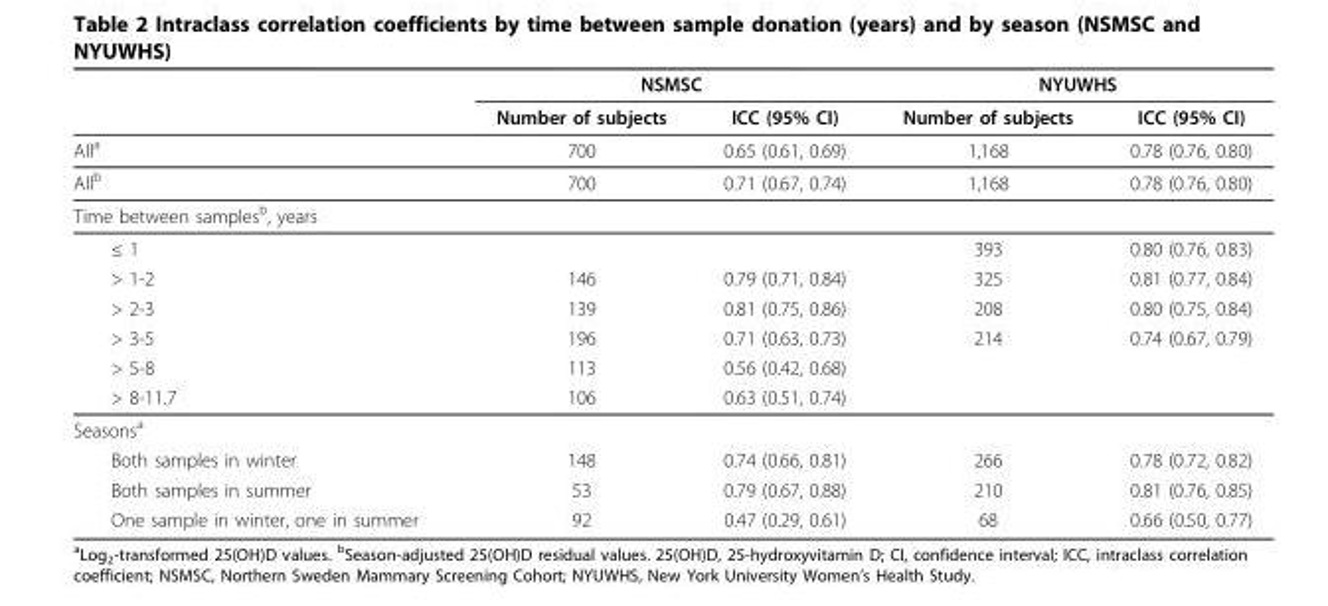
<table><thead><tr><td rowspan="2"></td><td colspan="2">NSMSC</td><td colspan="2">NYUWHS</td></tr><tr><td>Number of subjects</td><td>ICC (95% CI)</td><td>Number of subjects</td><td>ICC (95% CI)</td></tr></thead><tbody><tr><td>All<sup>a</sup></td><td>700</td><td>0.65 (0.61, 0.69)</td><td>1,168</td><td>0.78 (0.76, 0.80)</td></tr><tr><td>All<sup>b</sup></td><td>700</td><td>0.71 (0.67, 0.74)</td><td>1,168</td><td>0.78 (0.76, 0.80)</td></tr><tr><td colspan="5">Time between samples<sup>b</sup>, years</td></tr><tr><td>≤ 1</td><td></td><td></td><td>393</td><td>0.80 (0.76, 0.83)</td></tr><tr><td>&gt; 1-2</td><td>146</td><td>0.79 (0.71, 0.84)</td><td>325</td><td>0.81 (0.77, 0.84)</td></tr><tr><td>&gt; 2-3</td><td>139</td><td>0.81 (0.75, 0.86)</td><td>208</td><td>0.80 (0.75, 0.84)</td></tr><tr><td>&gt; 3-5</td><td>196</td><td>0.71 (0.63, 0.73)</td><td>214</td><td>0.74 (0.67, 0.79)</td></tr><tr><td>&gt; 5-8</td><td>113</td><td>0.56 (0.42, 0.68)</td><td></td><td></td></tr><tr><td>&gt; 8-11.7</td><td>106</td><td>0.63 (0.51, 0.74)</td><td></td><td></td></tr><tr><td colspan="5">Seasons<sup>a</sup></td></tr><tr><td>Both samples in winter</td><td>148</td><td>0.74 (0.66, 0.81)</td><td>266</td><td>0.78 (0.72, 0.82)</td></tr><tr><td>Both samples in summer</td><td>53</td><td>0.79 (0.67, 0.88)</td><td>210</td><td>0.81 (0.76, 0.85)</td></tr><tr><td>One sample in winter, one in summer</td><td>92</td><td>0.47 (0.29, 0.61)</td><td>68</td><td>0.66 (0.50, 0.77)</td></tr></tbody></table>